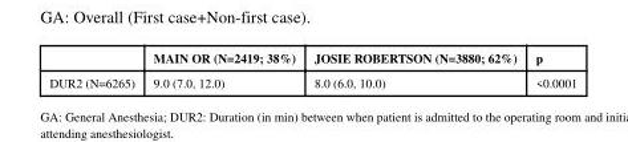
<table><thead><tr><td></td><td>MAIN OR (N=2419; 38%)</td><td>JOSIE ROBERTSON (N=3880; 62%)</td><td>p</td></tr></thead><tbody><tr><td>DUR2 (N=6265)</td><td>9.0 (7.0, 12.0)</td><td>8.0 (6.0, 10.0)</td><td>&lt;0.0001</td></tr></tbody></table>